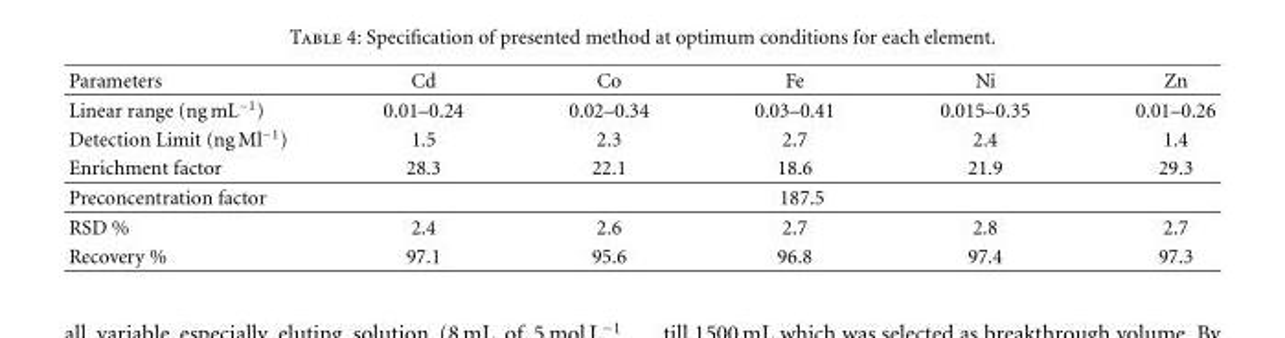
<table><thead><tr><td>Parameters</td><td>Cd</td><td>Co</td><td>Fe</td><td>Ni</td><td>Zn</td></tr></thead><tbody><tr><td>Linear range (ng mL<sup>−1</sup>)</td><td>0.01–0.24</td><td>0.02–0.34</td><td>0.03–0.41</td><td>0.015–0.35</td><td>0.01–0.26</td></tr><tr><td>Detection Limit (ng Ml<sup>−1</sup>)</td><td>1.5</td><td>2.3</td><td>2.7</td><td>2.4</td><td>1.4</td></tr><tr><td>Enrichment factor</td><td>28.3</td><td>22.1</td><td>18.6</td><td>21.9</td><td>29.3</td></tr><tr><td>Preconcentration factor</td><td colspan="5">187.5</td></tr><tr><td>RSD %</td><td>2.4</td><td>2.6</td><td>2.7</td><td>2.8</td><td>2.7</td></tr><tr><td>Recovery %</td><td>97.1</td><td>95.6</td><td>96.8</td><td>97.4</td><td>97.3</td></tr></tbody></table>